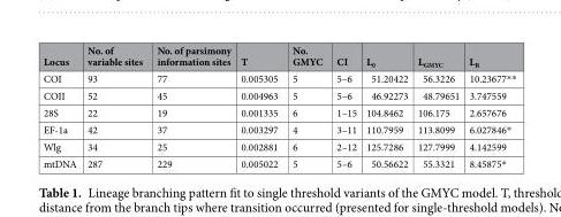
<table><thead><tr><td>Locus</td><td>No. of variable sites</td><td>No. of parsimony information sites</td><td>T</td><td>No. GMYC</td><td>CI</td><td>L<sub>0</sub></td><td>L<sub>GMYC</sub></td><td>L<sub>R</sub></td></tr></thead><tbody><tr><td>COI</td><td>93</td><td>77</td><td>0.005305</td><td>5</td><td>5–6</td><td>51.20422</td><td>56.3226</td><td>10.23677**</td></tr><tr><td>COII</td><td>52</td><td>45</td><td>0.004963</td><td>5</td><td>5–6</td><td>46.92273</td><td>48.79651</td><td>3.747559</td></tr><tr><td>28S</td><td>22</td><td>19</td><td>0.001335</td><td>6</td><td>1–15</td><td>104.8462</td><td>106.175</td><td>2.657676</td></tr><tr><td>EF-1a</td><td>42</td><td>37</td><td>0.003297</td><td>4</td><td>3–11</td><td>110.7959</td><td>113.8099</td><td>6.027846*</td></tr><tr><td>Wlg</td><td>34</td><td>25</td><td>0.002881</td><td>6</td><td>2–12</td><td>125.7286</td><td>127.7999</td><td>4.142599</td></tr><tr><td>mtDNA</td><td>287</td><td>229</td><td>0.005022</td><td>5</td><td>5–6</td><td>50.56622</td><td>55.3321</td><td>8.45875*</td></tr></tbody></table>